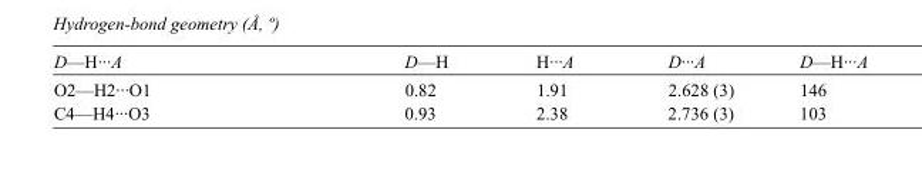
<table><tbody><tr><td>D—H···A</td><td>D—H</td><td>H···A</td><td>D···A</td><td>D—H···A</td></tr><tr><td>O2—H2···O1</td><td>0.82</td><td>1.91</td><td>2.628 (3)</td><td>146</td></tr><tr><td>C4—H4···O3</td><td>0.93</td><td>2.38</td><td>2.736 (3)</td><td>103</td></tr></tbody></table>